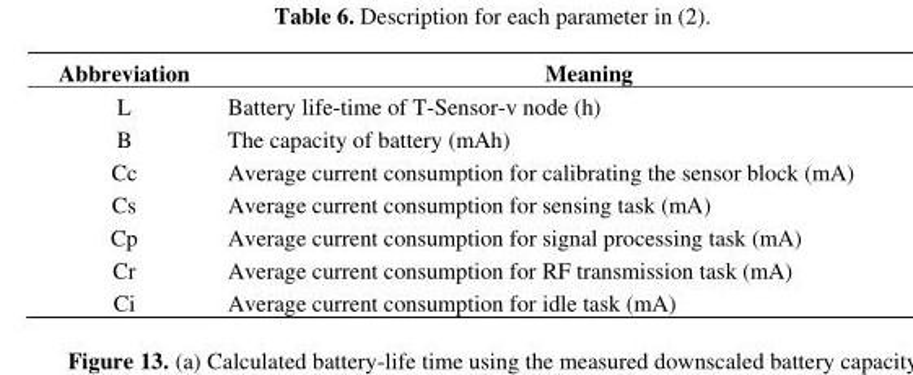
<table><thead><tr><td>Abbreviation</td><td>Meaning</td></tr></thead><tbody><tr><td>L</td><td>Battery life-time of T-Sensor-v node (h)</td></tr><tr><td>B</td><td>The capacity of battery (mAh)</td></tr><tr><td>Cc</td><td>Average current consumption for calibrating the sensor block (mA)</td></tr><tr><td>Cs</td><td>Average current consumption for sensing task (mA)</td></tr><tr><td>Cp</td><td>Average current consumption for signal processing task (mA)</td></tr><tr><td>Cr</td><td>Average current consumption for RF transmission task (mA)</td></tr><tr><td>Ci</td><td>Average current consumption for idle task (mA)</td></tr></tbody></table>